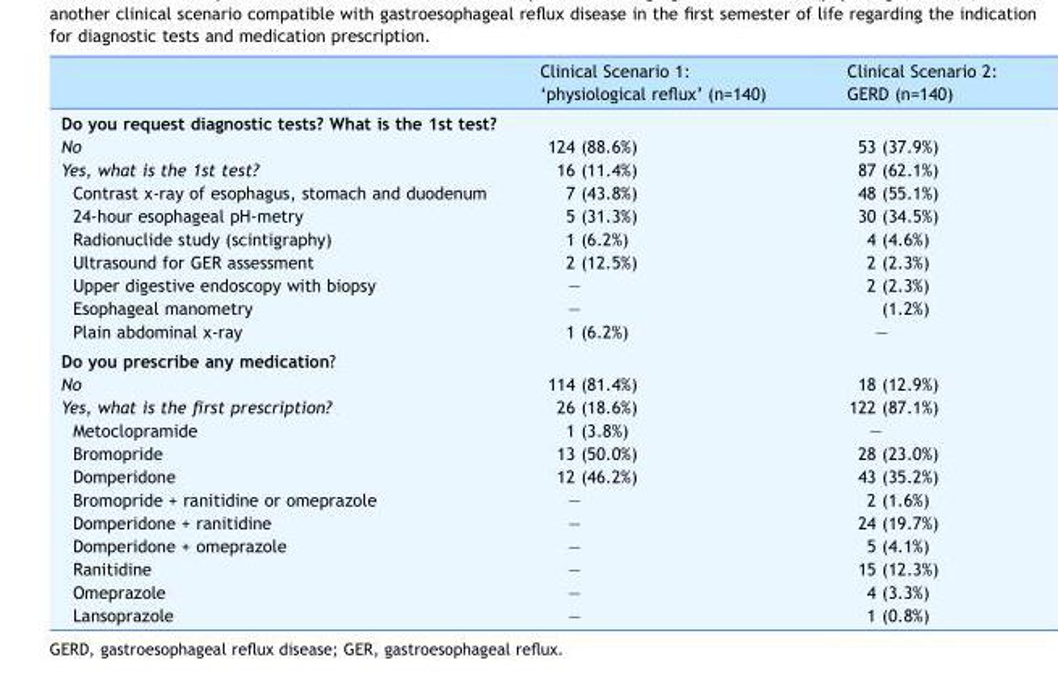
<table><thead><tr><td></td><td>Clinical Scenario 1: ‘physiological reflux’ (n=140)</td><td>Clinical Scenario 2: GERD (n=140)</td></tr></thead><tbody><tr><td colspan="3">Do you request diagnostic tests? What is the 1st test?</td></tr><tr><td>No</td><td>124 (88.6%)</td><td>53 (37.9%)</td></tr><tr><td>Yes, what is the 1st test?</td><td>16 (11.4%)</td><td>87 (62.1%)</td></tr><tr><td>Contrast x-ray of esophagus, stomach and duodenum</td><td>7 (43.8%)</td><td>48 (55.1%)</td></tr><tr><td>24-hour esophageal pH-metry</td><td>5 (31.3%)</td><td>30 (34.5%)</td></tr><tr><td>Radionuclide study (scintigraphy)</td><td>1 (6.2%)</td><td>4 (4.6%)</td></tr><tr><td>Ultrasound for GER assessment</td><td>2 (12.5%)</td><td>2 (2.3%)</td></tr><tr><td>Upper digestive endoscopy with biopsy</td><td>—</td><td>2 (2.3%)</td></tr><tr><td>Esophageal manometry</td><td>—</td><td>(1.2%)</td></tr><tr><td>Plain abdominal x-ray</td><td>1 (6.2%)</td><td>—</td></tr><tr><td colspan="3">Do you prescribe any medication?</td></tr><tr><td>No</td><td>114 (81.4%)</td><td>18 (12.9%)</td></tr><tr><td>Yes, what is the first prescription?</td><td>26 (18.6%)</td><td>122 (87.1%)</td></tr><tr><td>Metoclopramide</td><td>1 (3.8%)</td><td>—</td></tr><tr><td>Bromopride</td><td>13 (50.0%)</td><td>28 (23.0%)</td></tr><tr><td>Domperidone</td><td>12 (46.2%)</td><td>43 (35.2%)</td></tr><tr><td>Bromopride + ranitidine or omeprazole</td><td>—</td><td>2 (1.6%)</td></tr><tr><td>Domperidone + ranitidine</td><td>—</td><td>24 (19.7%)</td></tr><tr><td>Domperidone + omeprazole</td><td>—</td><td>5 (4.1%)</td></tr><tr><td>Ranitidine</td><td>—</td><td>15 (12.3%)</td></tr><tr><td>Omeprazole</td><td>—</td><td>4 (3.3%)</td></tr><tr><td>Lansoprazole</td><td>—</td><td>1 (0.8%)</td></tr></tbody></table>